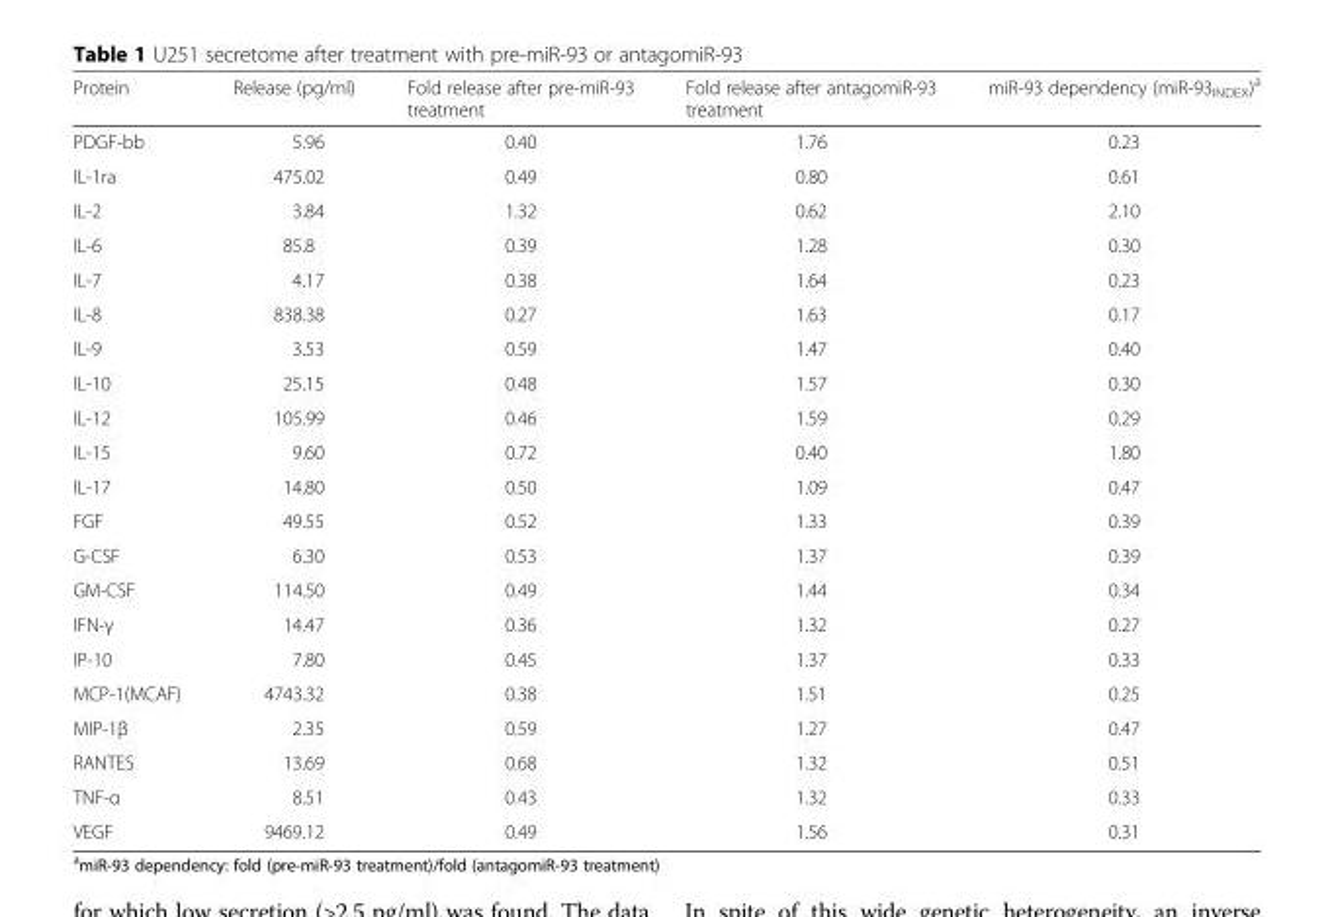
<table><thead><tr><td>Protein</td><td>Release (pg/ml)</td><td>Fold release after pre-miR-93 treatment</td><td>Fold release after antagomiR-93 treatment</td><td>miR-93 dependency (miR-93<sub>INDEX</sub>)<sup>a</sup></td></tr></thead><tbody><tr><td>PDGF-bb</td><td>5.96</td><td>0.40</td><td>1.76</td><td>0.23</td></tr><tr><td>IL-1ra</td><td>475.02</td><td>0.49</td><td>0.80</td><td>0.61</td></tr><tr><td>IL-2</td><td>3.84</td><td>1.32</td><td>0.62</td><td>2.10</td></tr><tr><td>IL-6</td><td>85.8</td><td>0.39</td><td>1.28</td><td>0.30</td></tr><tr><td>IL-7</td><td>4.17</td><td>0.38</td><td>1.64</td><td>0.23</td></tr><tr><td>IL-8</td><td>838.38</td><td>0.27</td><td>1.63</td><td>0.17</td></tr><tr><td>IL-9</td><td>3.53</td><td>0.59</td><td>1.47</td><td>0.40</td></tr><tr><td>IL-10</td><td>25.15</td><td>0.48</td><td>1.57</td><td>0.30</td></tr><tr><td>IL-12</td><td>105.99</td><td>0.46</td><td>1.59</td><td>0.29</td></tr><tr><td>IL-15</td><td>9.60</td><td>0.72</td><td>0.40</td><td>1.80</td></tr><tr><td>IL-17</td><td>14.80</td><td>0.50</td><td>1.09</td><td>0.47</td></tr><tr><td>FGF</td><td>49.55</td><td>0.52</td><td>1.33</td><td>0.39</td></tr><tr><td>G-CSF</td><td>6.30</td><td>0.53</td><td>1.37</td><td>0.39</td></tr><tr><td>GM-CSF</td><td>114.50</td><td>0.49</td><td>1.44</td><td>0.34</td></tr><tr><td>IFN-γ</td><td>14.47</td><td>0.36</td><td>1.32</td><td>0.27</td></tr><tr><td>IP-10</td><td>7.80</td><td>0.45</td><td>1.37</td><td>0.33</td></tr><tr><td>MCP-1(MCAF)</td><td>4743.32</td><td>0.38</td><td>1.51</td><td>0.25</td></tr><tr><td>MIP-1β</td><td>2.35</td><td>0.59</td><td>1.27</td><td>0.47</td></tr><tr><td>RANTES</td><td>13.69</td><td>0.68</td><td>1.32</td><td>0.51</td></tr><tr><td>TNF-α</td><td>8.51</td><td>0.43</td><td>1.32</td><td>0.33</td></tr><tr><td>VEGF</td><td>9469.12</td><td>0.49</td><td>1.56</td><td>0.31</td></tr></tbody></table>